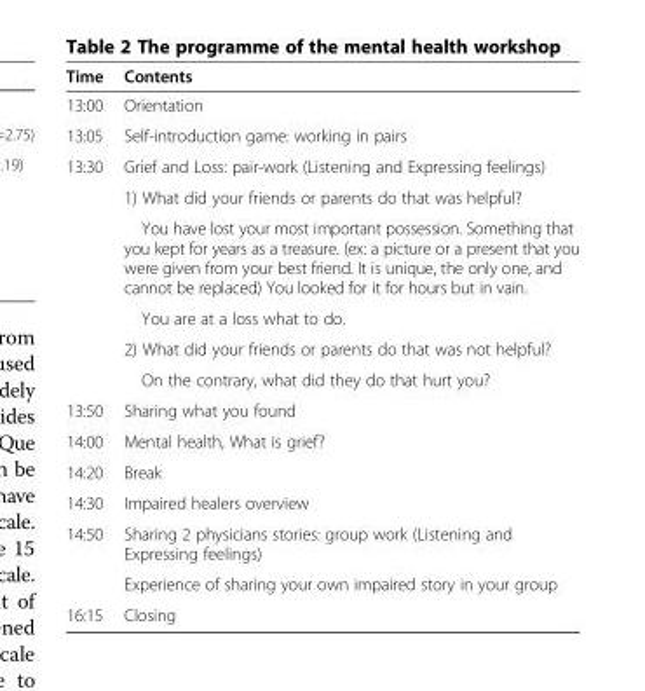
<table><thead><tr><td>Time</td><td>Contents</td></tr></thead><tbody><tr><td>13:00</td><td>Orientation</td></tr><tr><td>13:05</td><td>Self-introduction game: working in pairs</td></tr><tr><td rowspan="6">13:30</td><td>Grief and Loss: pair-work (Listening and Expressing feelings)</td></tr><tr><td>1) What did your friends or parents do that was helpful?</td></tr><tr><td>You have lost your most important possession. Something that you kept for years as a treasure. (ex: a picture or a present that you were given from your best friend. It is unique, the only one, and cannot be replaced) You looked for it for hours but in vain.</td></tr><tr><td>You are at a loss what to do.</td></tr><tr><td>2) What did your friends or parents do that was not helpful?</td></tr><tr><td>On the contrary, what did they do that hurt you?</td></tr><tr><td>13:50</td><td>Sharing what you found</td></tr><tr><td>14:00</td><td>Mental health, What is grief?</td></tr><tr><td>14:20</td><td>Break</td></tr><tr><td>14:30</td><td>Impaired healers overview</td></tr><tr><td rowspan="2">14:50</td><td>Sharing 2 physicians stories: group work (Listening and Expressing feelings)</td></tr><tr><td>Experience of sharing your own impaired story in your group</td></tr><tr><td>16:15</td><td>Closing</td></tr></tbody></table>